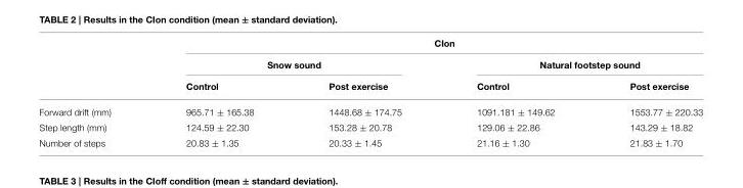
<table><thead><tr><td rowspan="3"></td><td colspan="4">CIon</td></tr><tr><td colspan="2">Snow sound</td><td colspan="2">Natural footstep sound</td></tr><tr><td>Control</td><td>Post exercise</td><td>Control</td><td>Post exercise</td></tr></thead><tbody><tr><td>Forward drift (mm)</td><td>965.71 ± 165.38</td><td>1448.68 ± 174.75</td><td>1091.181 ± 149.62</td><td>1553.77 ± 220.33</td></tr><tr><td>Step length (mm)</td><td>124.59 ± 22.30</td><td>153.28 ± 20.78</td><td>129.06 ± 22.86</td><td>143.29 ± 18.82</td></tr><tr><td>Number of steps</td><td>20.83 ± 1.35</td><td>20.33 ± 1.45</td><td>21.16 ± 1.30</td><td>21.83 ± 1.70</td></tr></tbody></table>